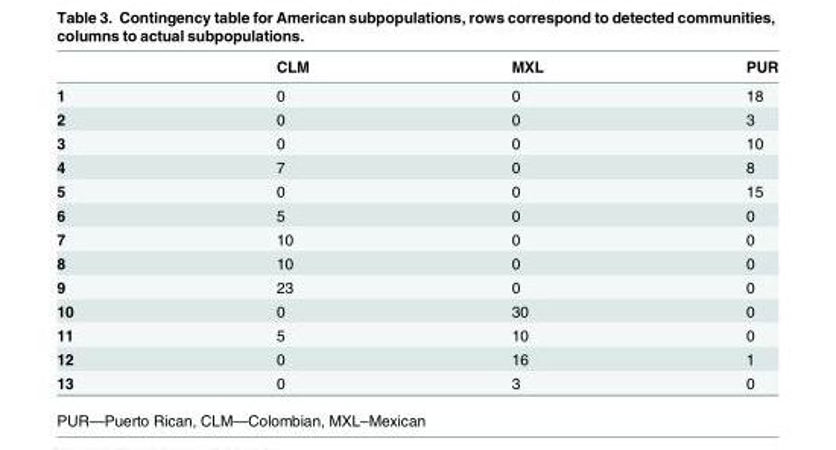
<table><thead><tr><td></td><td>CLM</td><td>MXL</td><td>PUR</td></tr></thead><tbody><tr><td>1</td><td>0</td><td>0</td><td>18</td></tr><tr><td>2</td><td>0</td><td>0</td><td>3</td></tr><tr><td>3</td><td>0</td><td>0</td><td>10</td></tr><tr><td>4</td><td>7</td><td>0</td><td>8</td></tr><tr><td>5</td><td>0</td><td>0</td><td>15</td></tr><tr><td>6</td><td>5</td><td>0</td><td>0</td></tr><tr><td>7</td><td>10</td><td>0</td><td>0</td></tr><tr><td>8</td><td>10</td><td>0</td><td>0</td></tr><tr><td>9</td><td>23</td><td>0</td><td>0</td></tr><tr><td>10</td><td>0</td><td>30</td><td>0</td></tr><tr><td>11</td><td>5</td><td>10</td><td>0</td></tr><tr><td>12</td><td>0</td><td>16</td><td>1</td></tr><tr><td>13</td><td>0</td><td>3</td><td>0</td></tr></tbody></table>